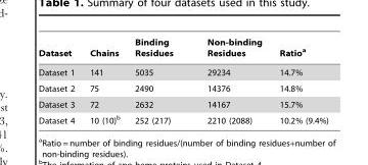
<table><thead><tr><td>Dataset</td><td>Chains</td><td>Binding Residues</td><td>Non-binding Residues</td><td>Ratio<sup>a</sup></td></tr></thead><tbody><tr><td>Dataset 1</td><td>141</td><td>5035</td><td>29234</td><td>14.7%</td></tr><tr><td>Dataset 2</td><td>75</td><td>2490</td><td>14376</td><td>14.8%</td></tr><tr><td>Dataset 3</td><td>72</td><td>2632</td><td>14167</td><td>15.7%</td></tr><tr><td>Dataset 4</td><td>10 (10)<sup>b</sup></td><td>252 (217)</td><td>2210 (2088)</td><td>10.2% (9.4%)</td></tr></tbody></table>